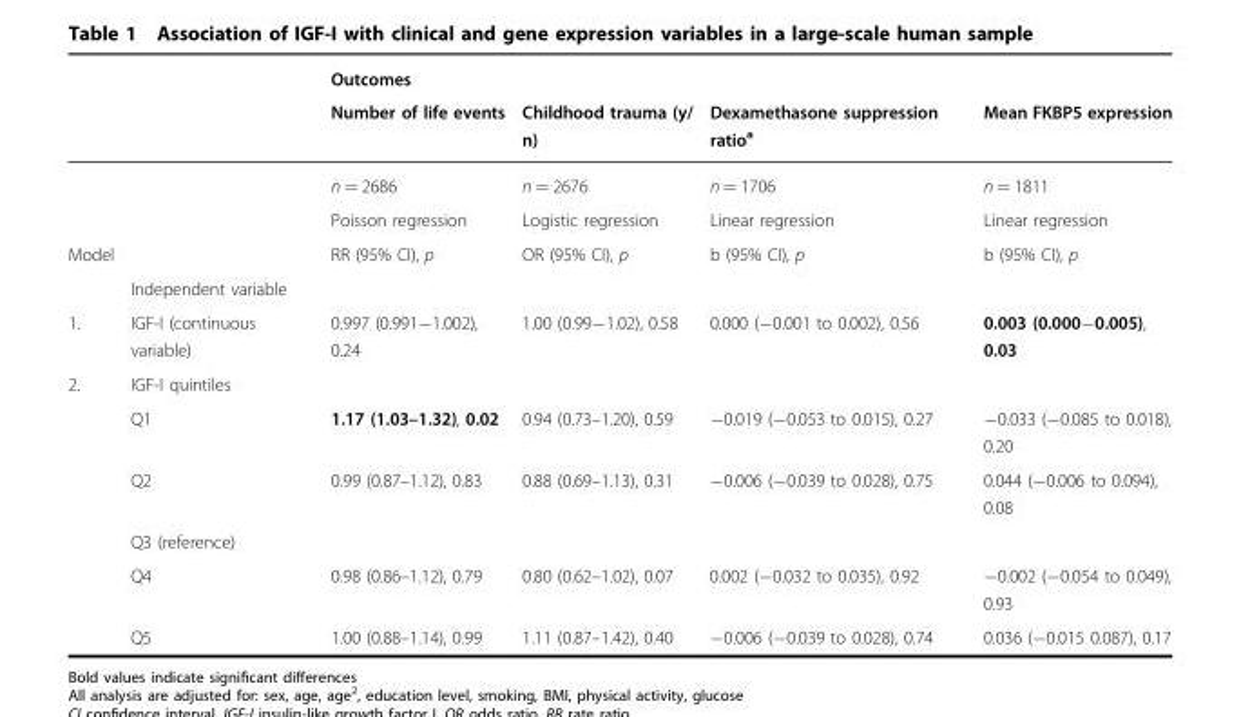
<table><thead><tr><td rowspan="2"></td><td rowspan="2"></td><td rowspan="2">Outcomes Number of life events</td><td rowspan="2">Childhood trauma (y/ n)</td><td rowspan="2">Dexamethasone suppression ratio<sup>a</sup></td><td rowspan="2">Mean FKBP5 expression</td></tr><tr></tr></thead><tbody><tr><td></td><td></td><td>n = 2686</td><td>n = 2676</td><td>n = 1706</td><td>n = 1811</td></tr><tr><td></td><td></td><td>Poisson regression</td><td>Logistic regression</td><td>Linear regression</td><td>Linear regression</td></tr><tr><td rowspan="2">Model</td><td></td><td>RR (95% CI), p</td><td>OR (95% CI), p</td><td>b (95% CI), p</td><td>b (95% CI), p</td></tr><tr><td>Independent variable</td><td></td><td></td><td></td><td></td></tr><tr><td>1.</td><td>IGF-I (continuous variable)</td><td>0.997 (0.991−1.002), 0.24</td><td>1.00 (0.99−1.02), 0.58</td><td>0.000 (−0.001 to 0.002), 0.56</td><td>0.003 (0.000−0.005), 0.03</td></tr><tr><td rowspan="6">2.</td><td>IGF-I quintiles</td><td></td><td></td><td></td><td></td></tr><tr><td>Q1</td><td>1.17 (1.03–1.32), 0.02</td><td>0.94 (0.73–1.20), 0.59</td><td>−0.019 (−0.053 to 0.015), 0.27</td><td>−0.033 (−0.085 to 0.018), 0.20</td></tr><tr><td>Q2</td><td>0.99 (0.87–1.12), 0.83</td><td>0.88 (0.69–1.13), 0.31</td><td>−0.006 (−0.039 to 0.028), 0.75</td><td>0.044 (−0.006 to 0.094), 0.08</td></tr><tr><td>Q3 (reference)</td><td></td><td></td><td></td><td></td></tr><tr><td>Q4</td><td>0.98 (0.86–1.12), 0.79</td><td>0.80 (0.62–1.02), 0.07</td><td>0.002 (−0.032 to 0.035), 0.92</td><td>−0.002 (−0.054 to 0.049), 0.93</td></tr><tr><td>Q5</td><td>1.00 (0.88–1.14), 0.99</td><td>1.11 (0.87–1.42), 0.40</td><td>−0.006 (−0.039 to 0.028), 0.74</td><td>0.036 (−0.015 0.087), 0.17</td></tr></tbody></table>